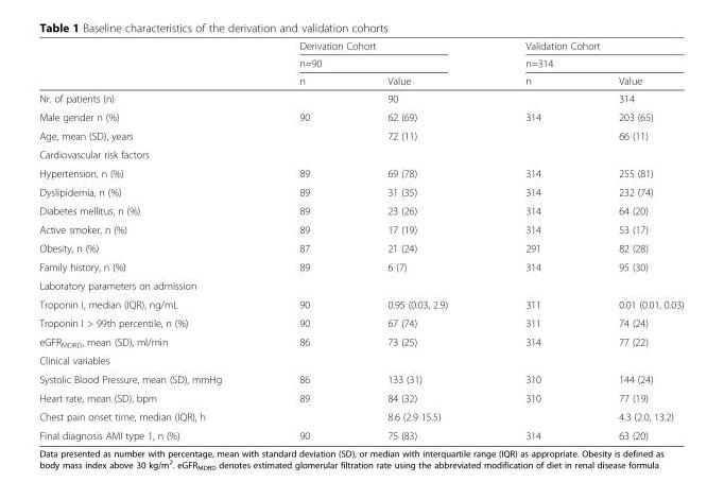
<table><thead><tr><td rowspan="3"></td><td rowspan="2" colspan="2">Derivation Cohort n=90</td><td rowspan="2" colspan="2">Validation Cohort n=314</td></tr><tr></tr><tr><td>n</td><td>Value</td><td>n</td><td>Value</td></tr></thead><tbody><tr><td>Nr. of patients (n)</td><td></td><td>90</td><td></td><td>314</td></tr><tr><td>Male gender n (%)</td><td>90</td><td>62 (69)</td><td>314</td><td>203 (65)</td></tr><tr><td>Age, mean (SD), years</td><td></td><td>72 (11)</td><td></td><td>66 (11)</td></tr><tr><td colspan="5">Cardiovascular risk factors</td></tr><tr><td>Hypertension, n (%)</td><td>89</td><td>69 (78)</td><td>314</td><td>255 (81)</td></tr><tr><td>Dyslipidemia, n (%)</td><td>89</td><td>31 (35)</td><td>314</td><td>232 (74)</td></tr><tr><td>Diabetes mellitus, n (%)</td><td>89</td><td>23 (26)</td><td>314</td><td>64 (20)</td></tr><tr><td>Active smoker, n (%)</td><td>89</td><td>17 (19)</td><td>314</td><td>53 (17)</td></tr><tr><td>Obesity, n (%)</td><td>87</td><td>21 (24)</td><td>291</td><td>82 (28)</td></tr><tr><td>Family history, n (%)</td><td>89</td><td>6 (7)</td><td>314</td><td>95 (30)</td></tr><tr><td colspan="5">Laboratory parameters on admission</td></tr><tr><td>Troponin I, median (IQR), ng/mL</td><td>90</td><td>0.95 (0.03, 2.9)</td><td>311</td><td>0.01 (0.01, 0.03)</td></tr><tr><td>Troponin I &gt; 99th percentile, n (%)</td><td>90</td><td>67 (74)</td><td>311</td><td>74 (24)</td></tr><tr><td>eGFR<sub>MDRD</sub>, mean (SD), ml/min</td><td>86</td><td>73 (25)</td><td>314</td><td>77 (22)</td></tr><tr><td colspan="5">Clinical variables</td></tr><tr><td>Systolic Blood Pressure, mean (SD), mmHg</td><td>86</td><td>133 (31)</td><td>310</td><td>144 (24)</td></tr><tr><td>Heart rate, mean (SD), bpm</td><td>89</td><td>84 (32)</td><td>310</td><td>77 (19)</td></tr><tr><td>Chest pain onset time, median (IQR), h</td><td></td><td>8.6 (2.9 15.5)</td><td></td><td>4.3 (2.0, 13.2)</td></tr><tr><td>Final diagnosis AMI type 1, n (%)</td><td>90</td><td>75 (83)</td><td>314</td><td>63 (20)</td></tr></tbody></table>